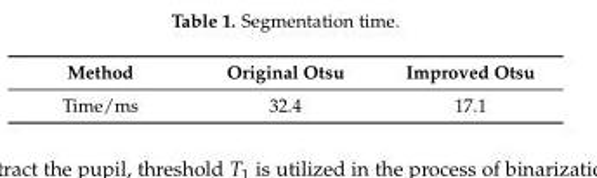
<table><thead><tr><td>Method</td><td>Original Otsu</td><td>Improved Otsu</td></tr></thead><tbody><tr><td>Time/ms</td><td>32.4</td><td>17.1</td></tr></tbody></table>